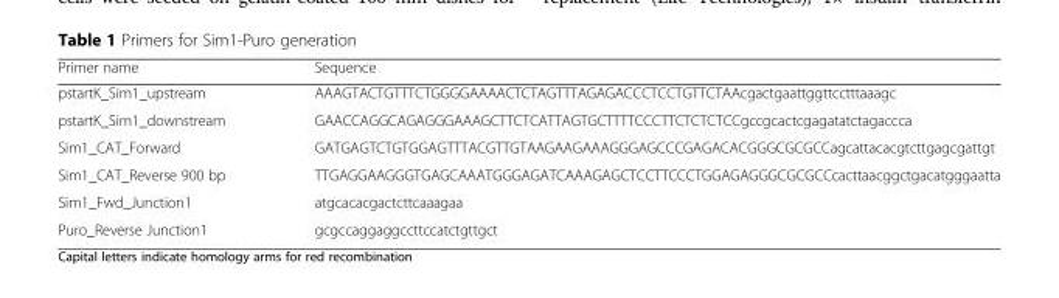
<table><thead><tr><td>Primer name</td><td>Sequence</td></tr></thead><tbody><tr><td>pstartK_Sim1_upstream</td><td>AAAGTACTGTTTCTGGGGAAAACTCTAGTTTAGAGACCCTCCTGTTCTAAcgactgaattggttcctttaaagc</td></tr><tr><td>pstartK_Sim1_downstream</td><td>GAACCAGGCAGAGGGAAAGCTTCTCATTAGTGCTTTTCCCTTCTCTCTCCgccgcactcgagatatctagaccca</td></tr><tr><td>Sim1_CAT_Forward</td><td>GATGAGTCTGTGGAGTTTACGTTGTAAGAAGAAAGGGAGCCCGAGACACGGGCGCGCCagcattacacgtcttgagcgattgt</td></tr><tr><td>Sim1_CAT_Reverse 900 bp</td><td>TTGAGGAAGGGTGAGCAAATGGGAGATCAAAGAGCTCCTTCCCTGGAGAGGGCGCGCCcacttaacggctgacatgggaatta</td></tr><tr><td>Sim1_Fwd_Junction1</td><td>atgcacacgactcttcaaagaa</td></tr><tr><td>Puro_Reverse Junction1</td><td>gcgccaggaggccttccatctgttgct</td></tr></tbody></table>